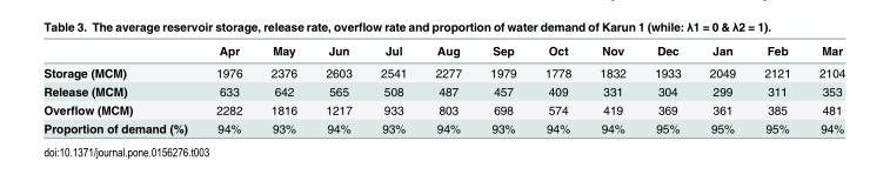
<table><thead><tr><td></td><td>Apr</td><td>May</td><td>Jun</td><td>Jul</td><td>Aug</td><td>Sep</td><td>Oct</td><td>Nov</td><td>Dec</td><td>Jan</td><td>Feb</td><td>Mar</td></tr></thead><tbody><tr><td>Storage (MCM)</td><td>1976</td><td>2376</td><td>2603</td><td>2541</td><td>2277</td><td>1979</td><td>1778</td><td>1832</td><td>1933</td><td>2049</td><td>2121</td><td>2104</td></tr><tr><td>Release (MCM)</td><td>633</td><td>642</td><td>565</td><td>508</td><td>487</td><td>457</td><td>409</td><td>331</td><td>304</td><td>299</td><td>311</td><td>353</td></tr><tr><td>Overflow (MCM)</td><td>2282</td><td>1816</td><td>1217</td><td>933</td><td>803</td><td>698</td><td>574</td><td>419</td><td>369</td><td>361</td><td>385</td><td>481</td></tr><tr><td>Proportion of demand (%)</td><td>94%</td><td>93%</td><td>94%</td><td>93%</td><td>94%</td><td>93%</td><td>94%</td><td>94%</td><td>95%</td><td>95%</td><td>95%</td><td>94%</td></tr></tbody></table>